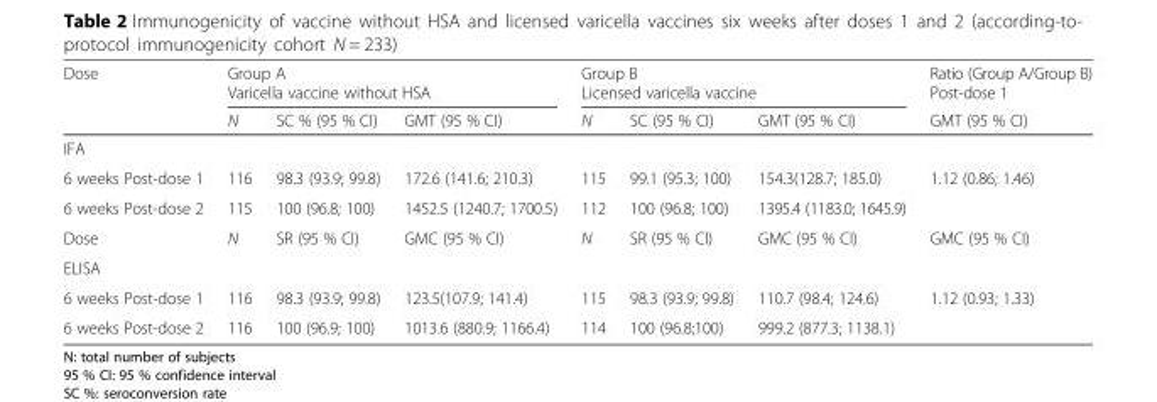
<table><thead><tr><td rowspan="2">Dose</td><td colspan="3">Group A Varicella vaccine without HSA</td><td colspan="3">Group B Licensed varicella vaccine</td><td rowspan="2">Ratio (Group A/Group B) Post-dose 1 GMT (95 % CI)</td></tr><tr><td>N</td><td>SC % (95 % CI)</td><td>GMT (95 % CI)</td><td>N</td><td>SC (95 % CI)</td><td>GMT (95 % CI)</td></tr></thead><tbody><tr><td colspan="8">IFA</td></tr><tr><td>6 weeks Post-dose 1</td><td>116</td><td>98.3 (93.9; 99.8)</td><td>172.6 (141.6; 210.3)</td><td>115</td><td>99.1 (95.3; 100)</td><td>154.3(128.7; 185.0)</td><td rowspan="2">1.12 (0.86; 1.46)</td></tr><tr><td>6 weeks Post-dose 2</td><td>115</td><td>100 (96.8; 100)</td><td>1452.5 (1240.7; 1700.5)</td><td>112</td><td>100 (96.8; 100)</td><td>1395.4 (1183.0; 1645.9)</td></tr><tr><td>Dose</td><td>N</td><td>SR (95 % CI)</td><td>GMC (95 % CI)</td><td>N</td><td>SR (95 % CI)</td><td>GMC (95 % CI)</td><td>GMC (95 % CI)</td></tr><tr><td colspan="8">ELISA</td></tr><tr><td>6 weeks Post-dose 1</td><td>116</td><td>98.3 (93.9; 99.8)</td><td>123.5(107.9; 141.4)</td><td>115</td><td>98.3 (93.9; 99.8)</td><td>110.7 (98.4; 124.6)</td><td rowspan="2">1.12 (0.93; 1.33)</td></tr><tr><td>6 weeks Post-dose 2</td><td>116</td><td>100 (96.9; 100)</td><td>1013.6 (880.9; 1166.4)</td><td>114</td><td>100 (96.8;100)</td><td>999.2 (877.3; 1138.1)</td></tr></tbody></table>